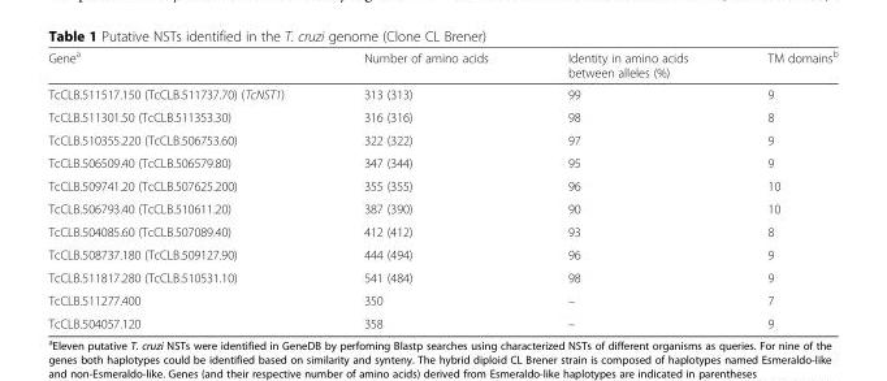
<table><thead><tr><td>Gene<sup>a</sup></td><td>Number of amino acids</td><td>Identity in amino acids between alleles (%)</td><td>TM domains<sup>b</sup></td></tr></thead><tbody><tr><td>TcCLB.511517.150 (TcCLB.511737.70) (TcNST1)</td><td>313 (313)</td><td>99</td><td>9</td></tr><tr><td>TcCLB.511301.50 (TcCLB.511353.30)</td><td>316 (316)</td><td>98</td><td>8</td></tr><tr><td>TcCLB.510355.220 (TcCLB.506753.60)</td><td>322 (322)</td><td>97</td><td>9</td></tr><tr><td>TcCLB.506509.40 (TcCLB.506579.80)</td><td>347 (344)</td><td>95</td><td>9</td></tr><tr><td>TcCLB.509741.20 (TcCLB.507625.200)</td><td>355 (355)</td><td>96</td><td>10</td></tr><tr><td>TcCLB.506793.40 (TcCLB.510611.20)</td><td>387 (390)</td><td>90</td><td>10</td></tr><tr><td>TcCLB.504085.60 (TcCLB.507089.40)</td><td>412 (412)</td><td>93</td><td>8</td></tr><tr><td>TcCLB.508737.180 (TcCLB.509127.90)</td><td>444 (494)</td><td>96</td><td>9</td></tr><tr><td>TcCLB.511817.280 (TcCLB.510531.10)</td><td>541 (484)</td><td>98</td><td>9</td></tr><tr><td>TcCLB.511277.400</td><td>350</td><td>–</td><td>7</td></tr><tr><td>TcCLB.504057.120</td><td>358</td><td>–</td><td>9</td></tr></tbody></table>